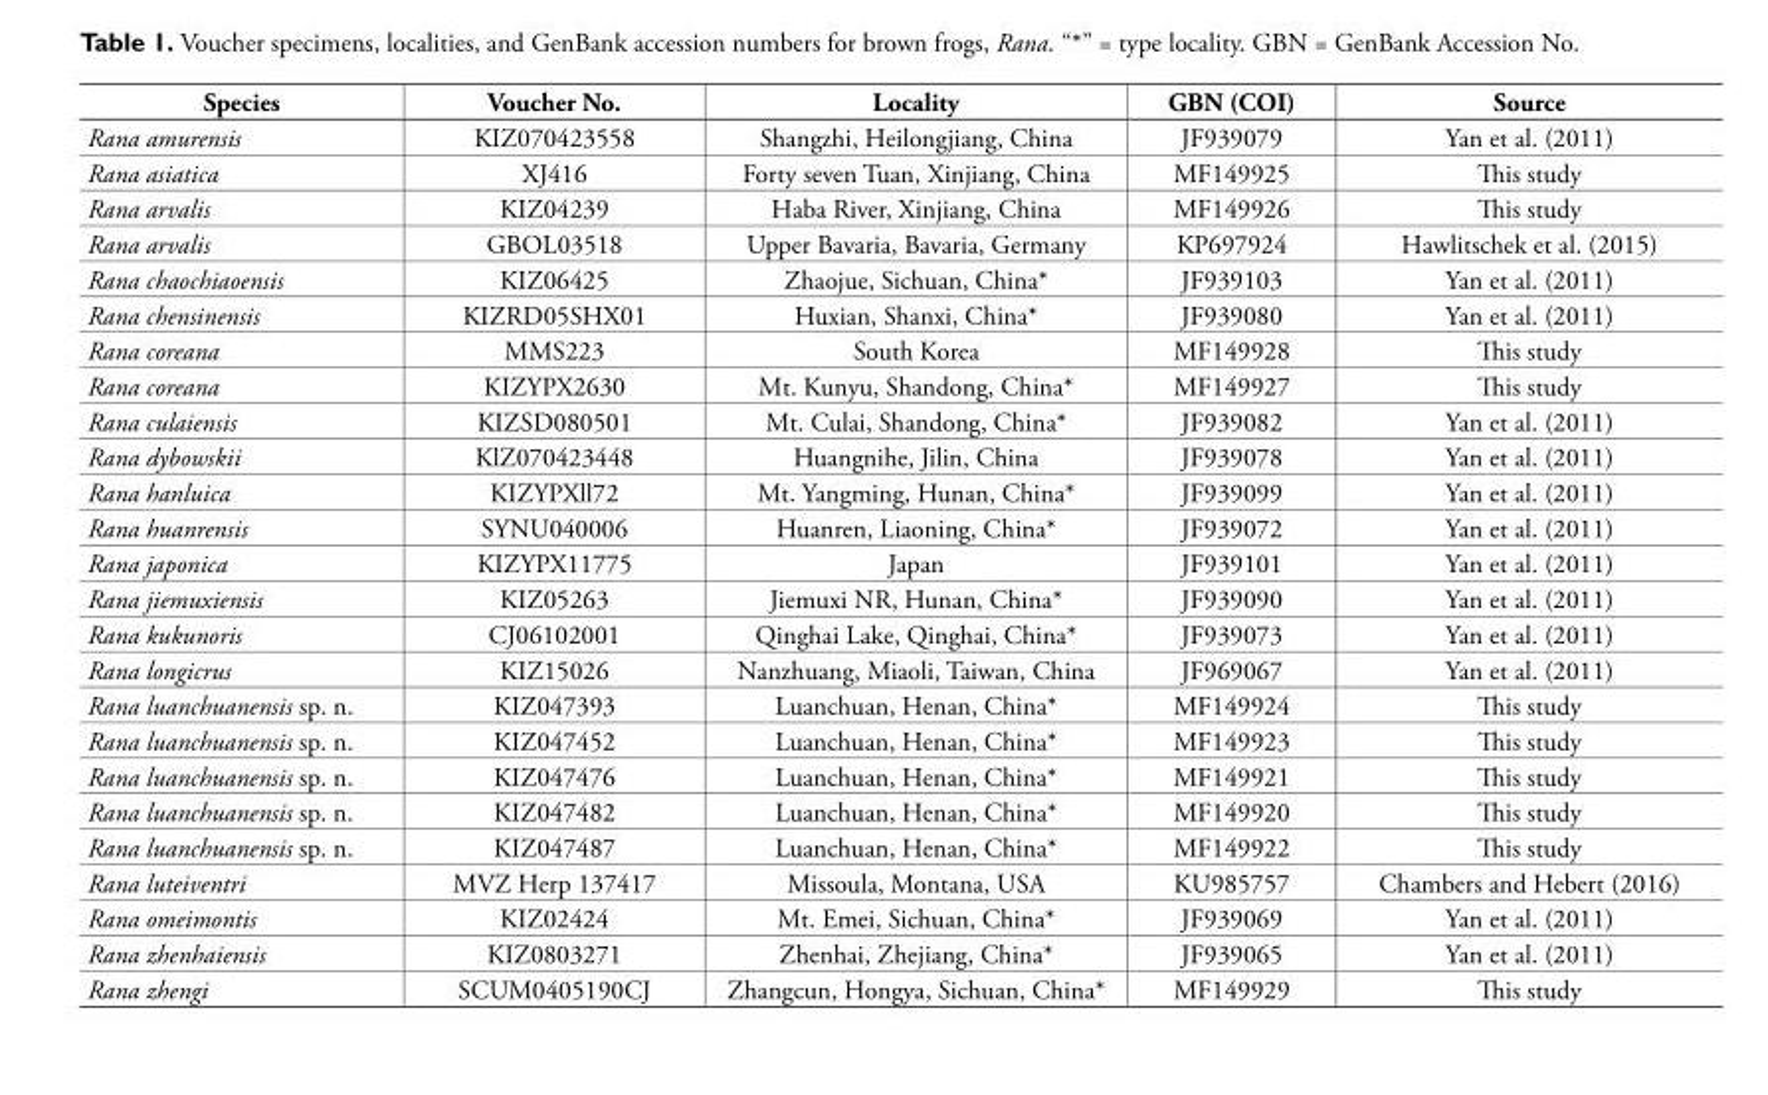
<table><thead><tr><td>Species</td><td>Voucher No.</td><td>Locality</td><td>GBN (COI)</td><td>Source</td></tr></thead><tbody><tr><td>Rana amurensis</td><td>KIZ070423558</td><td>Shangzhi, Heilongjiang, China</td><td>JF939079</td><td>Yan et al. (2011)</td></tr><tr><td>Rana asiatica</td><td>XJ416</td><td>Forty seven Tuan, Xinjiang, China</td><td>MF149925</td><td>This study</td></tr><tr><td>Rana arvalis</td><td>KIZ04239</td><td>Haba River, Xinjiang, China</td><td>MF149926</td><td>This study</td></tr><tr><td>Rana arvalis</td><td>GBOL03518</td><td>Upper Bavaria, Bavaria, Germany</td><td>KP697924</td><td>Hawlitschek et al. (2015)</td></tr><tr><td>Rana chaochiaoensis</td><td>KIZ06425</td><td>Zhaojue, Sichuan, China*</td><td>JF939103</td><td>Yan et al. (2011)</td></tr><tr><td>Rana chensinensis</td><td>KIZRD05SHX01</td><td>Huxian, Shanxi, China*</td><td>JF939080</td><td>Yan et al. (2011)</td></tr><tr><td>Rana coreana</td><td>MMS223</td><td>South Korea</td><td>MF149928</td><td>This study</td></tr><tr><td>Rana coreana</td><td>KIZYPX2630</td><td>Mt. Kunyu, Shandong, China*</td><td>MF149927</td><td>This study</td></tr><tr><td>Rana culaiensis</td><td>KIZSD080501</td><td>Mt. Culai, Shandong, China*</td><td>JF939082</td><td>Yan et al. (2011)</td></tr><tr><td>Rana dybowskii</td><td>KlZ070423448</td><td>Huangnihe, Jilin, China</td><td>JF939078</td><td>Yan et al. (2011)</td></tr><tr><td>Rana hanluica</td><td>KIZYPXll72</td><td>Mt. Yangming, Hunan, China*</td><td>JF939099</td><td>Yan et al. (2011)</td></tr><tr><td>Rana huanrensis</td><td>SYNU040006</td><td>Huanren, Liaoning, China*</td><td>JF939072</td><td>Yan et al. (2011)</td></tr><tr><td>Rana japonica</td><td>KIZYPX11775</td><td>Japan</td><td>JF939101</td><td>Yan et al. (2011)</td></tr><tr><td>Rana jiemuxiensis</td><td>KIZ05263</td><td>Jiemuxi NR, Hunan, China*</td><td>JF939090</td><td>Yan et al. (2011)</td></tr><tr><td>Rana kukunoris</td><td>CJ06102001</td><td>Qinghai Lake, Qinghai, China*</td><td>JF939073</td><td>Yan et al. (2011)</td></tr><tr><td>Rana longicrus</td><td>KIZ15026</td><td>Nanzhuang, Miaoli, Taiwan, China</td><td>JF969067</td><td>Yan et al. (2011)</td></tr><tr><td>Rana luanchuanensis sp. n.</td><td>KIZ047393</td><td>Luanchuan, Henan, China*</td><td>MF149924</td><td>This study</td></tr><tr><td>Rana luanchuanensis sp. n.</td><td>KIZ047452</td><td>Luanchuan, Henan, China*</td><td>MF149923</td><td>This study</td></tr><tr><td>Rana luanchuanensis sp. n.</td><td>KIZ047476</td><td>Luanchuan, Henan, China*</td><td>MF149921</td><td>This study</td></tr><tr><td>Rana luanchuanensis sp. n.</td><td>KIZ047482</td><td>Luanchuan, Henan, China*</td><td>MF149920</td><td>This study</td></tr><tr><td>Rana luanchuanensis sp. n.</td><td>KIZ047487</td><td>Luanchuan, Henan, China*</td><td>MF149922</td><td>This study</td></tr><tr><td>Rana luteiventri</td><td>MVZ Herp 137417</td><td>Missoula, Montana, USA</td><td>KU985757</td><td>Chambers and Hebert (2016)</td></tr><tr><td>Rana omeimontis</td><td>KIZ02424</td><td>Mt. Emei, Sichuan, China*</td><td>JF939069</td><td>Yan et al. (2011)</td></tr><tr><td>Rana zhenhaiensis</td><td>KIZ0803271</td><td>Zhenhai, Zhejiang, China*</td><td>JF939065</td><td>Yan et al. (2011)</td></tr><tr><td>Rana zhengi</td><td>SCUM0405190CJ</td><td>Zhangcun, Hongya, Sichuan, China*</td><td>MF149929</td><td>This study</td></tr></tbody></table>